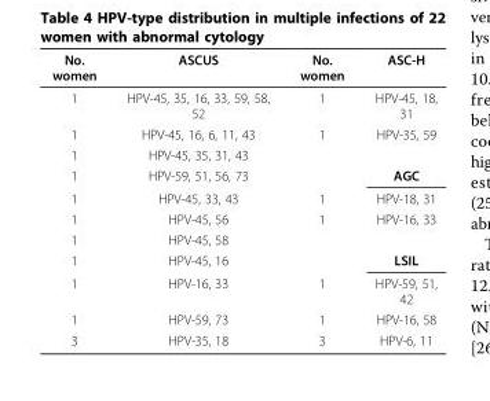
<table><thead><tr><td>No. women</td><td>ASCUS</td><td>No. women</td><td>ASC-H</td></tr></thead><tbody><tr><td>1</td><td>HPV-45, 35, 16, 33, 59, 58, 52</td><td>1</td><td>HPV-45, 18, 31</td></tr><tr><td>1</td><td>HPV-45, 16, 6, 11, 43</td><td>1</td><td>HPV-35, 59</td></tr><tr><td>1</td><td>HPV-45, 35, 31, 43</td><td></td><td></td></tr><tr><td>1</td><td>HPV-59, 51, 56, 73</td><td></td><td>AGC</td></tr><tr><td>1</td><td>HPV-45, 33, 43</td><td>1</td><td>HPV-18, 31</td></tr><tr><td>1</td><td>HPV-45, 56</td><td>1</td><td>HPV-16, 33</td></tr><tr><td>1</td><td>HPV-45, 58</td><td></td><td></td></tr><tr><td>1</td><td>HPV-45, 16</td><td></td><td>LSIL</td></tr><tr><td>1</td><td>HPV-16, 33</td><td>1</td><td>HPV-59, 51, 42</td></tr><tr><td>1</td><td>HPV-59, 73</td><td>1</td><td>HPV-16, 58</td></tr><tr><td>3</td><td>HPV-35, 18</td><td>3</td><td>HPV-6, 11</td></tr></tbody></table>